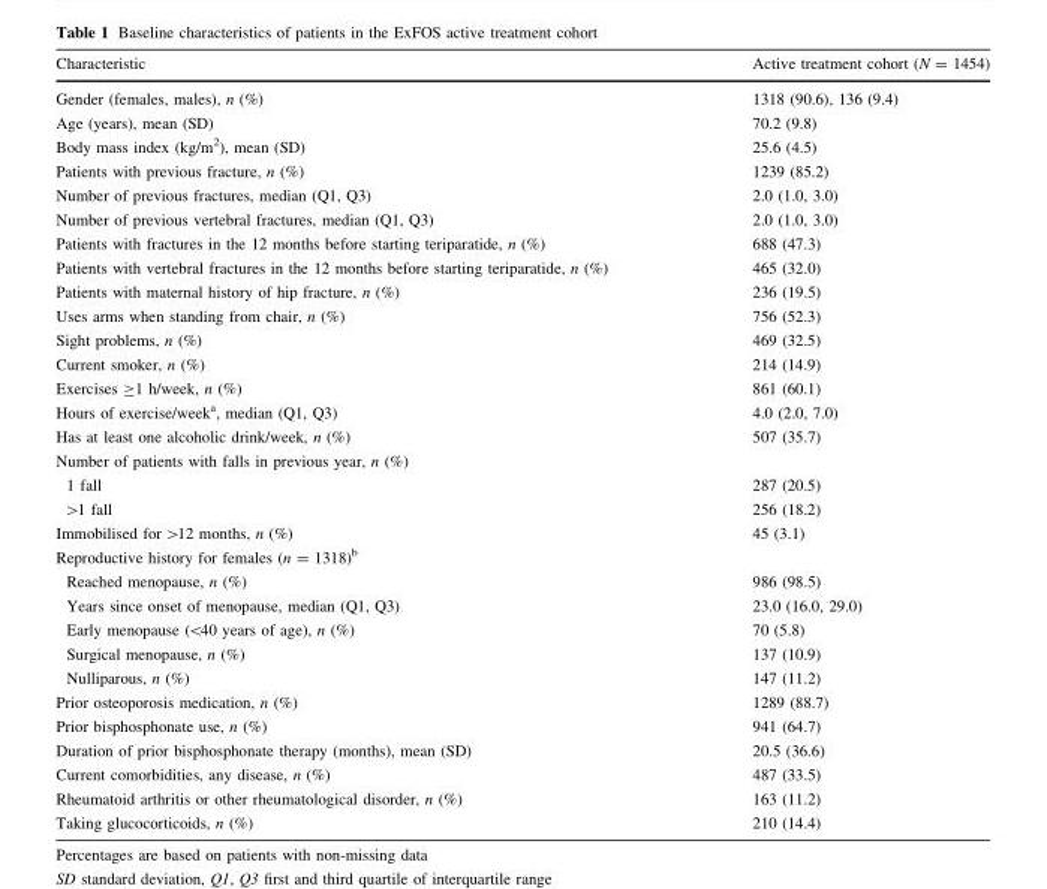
<table><thead><tr><td>Characteristic</td><td>Active treatment cohort (N = 1454)</td></tr></thead><tbody><tr><td>Gender (females, males), n (%)</td><td>1318 (90.6), 136 (9.4)</td></tr><tr><td>Age (years), mean (SD)</td><td>70.2 (9.8)</td></tr><tr><td>Body mass index (kg/m<sup>2</sup>), mean (SD)</td><td>25.6 (4.5)</td></tr><tr><td>Patients with previous fracture, n (%)</td><td>1239 (85.2)</td></tr><tr><td>Number of previous fractures, median (Q1, Q3)</td><td>2.0 (1.0, 3.0)</td></tr><tr><td>Number of previous vertebral fractures, median (Q1, Q3)</td><td>2.0 (1.0, 3.0)</td></tr><tr><td>Patients with fractures in the 12 months before starting teriparatide, n (%)</td><td>688 (47.3)</td></tr><tr><td>Patients with vertebral fractures in the 12 months before starting teriparatide, n (%)</td><td>465 (32.0)</td></tr><tr><td>Patients with maternal history of hip fracture, n (%)</td><td>236 (19.5)</td></tr><tr><td>Uses arms when standing from chair, n (%)</td><td>756 (52.3)</td></tr><tr><td>Sight problems, n (%)</td><td>469 (32.5)</td></tr><tr><td>Current smoker, n (%)</td><td>214 (14.9)</td></tr><tr><td>Exercises ≥1 h/week, n (%)</td><td>861 (60.1)</td></tr><tr><td>Hours of exercise/week<sup>a</sup>, median (Q1, Q3)</td><td>4.0 (2.0, 7.0)</td></tr><tr><td>Has at least one alcoholic drink/week, n (%)</td><td>507 (35.7)</td></tr><tr><td colspan="2">Number of patients with falls in previous year, n (%)</td></tr><tr><td>1 fall</td><td>287 (20.5)</td></tr><tr><td>&gt;1 fall</td><td>256 (18.2)</td></tr><tr><td>Immobilised for &gt;12 months, n (%)</td><td>45 (3.1)</td></tr><tr><td colspan="2">Reproductive history for females (n = 1318)<sup>b</sup></td></tr><tr><td>Reached menopause, n (%)</td><td>986 (98.5)</td></tr><tr><td>Years since onset of menopause, median (Q1, Q3)</td><td>23.0 (16.0, 29.0)</td></tr><tr><td>Early menopause (&lt;40 years of age), n (%)</td><td>70 (5.8)</td></tr><tr><td>Surgical menopause, n (%)</td><td>137 (10.9)</td></tr><tr><td>Nulliparous, n (%)</td><td>147 (11.2)</td></tr><tr><td>Prior osteoporosis medication, n (%)</td><td>1289 (88.7)</td></tr><tr><td>Prior bisphosphonate use, n (%)</td><td>941 (64.7)</td></tr><tr><td>Duration of prior bisphosphonate therapy (months), mean (SD)</td><td>20.5 (36.6)</td></tr><tr><td>Current comorbidities, any disease, n (%)</td><td>487 (33.5)</td></tr><tr><td>Rheumatoid arthritis or other rheumatological disorder, n (%)</td><td>163 (11.2)</td></tr><tr><td>Taking glucocorticoids, n (%)</td><td>210 (14.4)</td></tr></tbody></table>